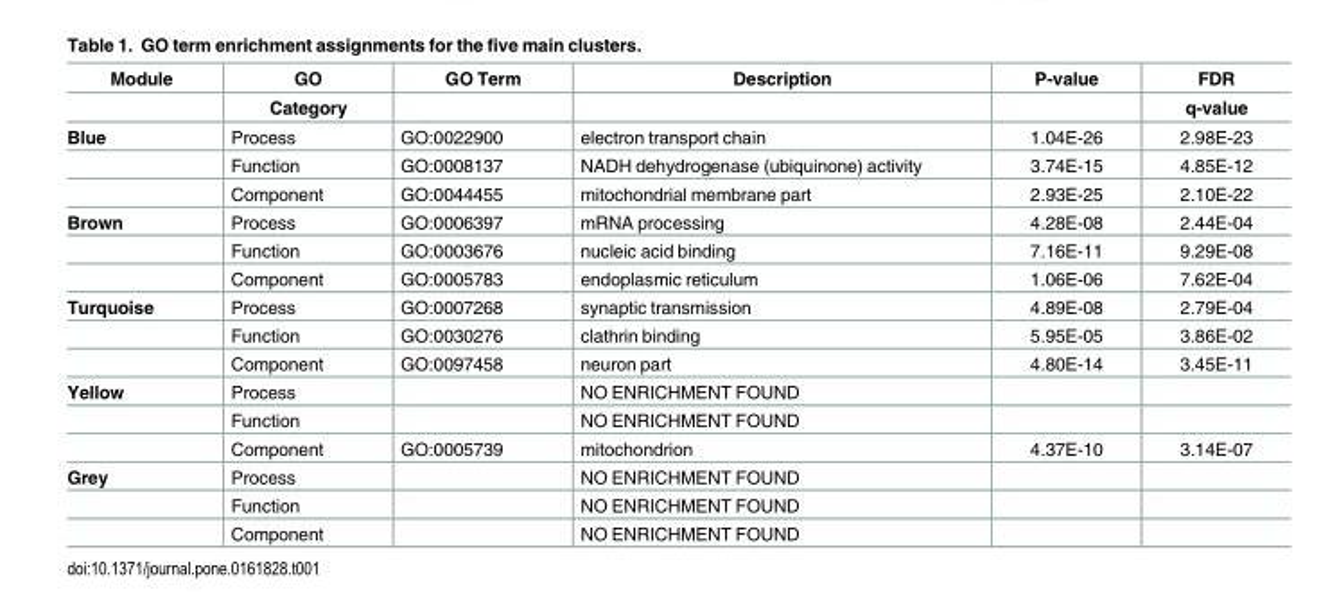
<table><thead><tr><td rowspan="2">Module</td><td rowspan="2">GO Category</td><td rowspan="2">GO Term</td><td rowspan="2">Description</td><td rowspan="2">P-value</td><td rowspan="2">FDR q-value</td></tr><tr></tr></thead><tbody><tr><td rowspan="3">Blue</td><td>Process</td><td>GO:0022900</td><td>electron transport chain</td><td>1.04E-26</td><td>2.98E-23</td></tr><tr><td>Function</td><td>GO:0008137</td><td>NADH dehydrogenase (ubiquinone) activity</td><td>3.74E-15</td><td>4.85E-12</td></tr><tr><td>Component</td><td>GO:0044455</td><td>mitochondrial membrane part</td><td>2.93E-25</td><td>2.10E-22</td></tr><tr><td rowspan="3">Brown</td><td>Process</td><td>GO:0006397</td><td>mRNA processing</td><td>4.28E-08</td><td>2.44E-04</td></tr><tr><td>Function</td><td>GO:0003676</td><td>nucleic acid binding</td><td>7.16E-11</td><td>9.29E-08</td></tr><tr><td>Component</td><td>GO:0005783</td><td>endoplasmic reticulum</td><td>1.06E-06</td><td>7.62E-04</td></tr><tr><td rowspan="3">Turquoise</td><td>Process</td><td>GO:0007268</td><td>synaptic transmission</td><td>4.89E-08</td><td>2.79E-04</td></tr><tr><td>Function</td><td>GO:0030276</td><td>clathrin binding</td><td>5.95E-05</td><td>3.86E-02</td></tr><tr><td>Component</td><td>GO:0097458</td><td>neuron part</td><td>4.80E-14</td><td>3.45E-11</td></tr><tr><td rowspan="3">Yellow</td><td>Process</td><td></td><td>NO ENRICHMENT FOUND</td><td></td><td></td></tr><tr><td>Function</td><td></td><td>NO ENRICHMENT FOUND</td><td></td><td></td></tr><tr><td>Component</td><td>GO:0005739</td><td>mitochondrion</td><td>4.37E-10</td><td>3.14E-07</td></tr><tr><td rowspan="3">Grey</td><td>Process</td><td></td><td>NO ENRICHMENT FOUND</td><td></td><td></td></tr><tr><td>Function</td><td></td><td>NO ENRICHMENT FOUND</td><td></td><td></td></tr><tr><td>Component</td><td></td><td>NO ENRICHMENT FOUND</td><td></td><td></td></tr></tbody></table>